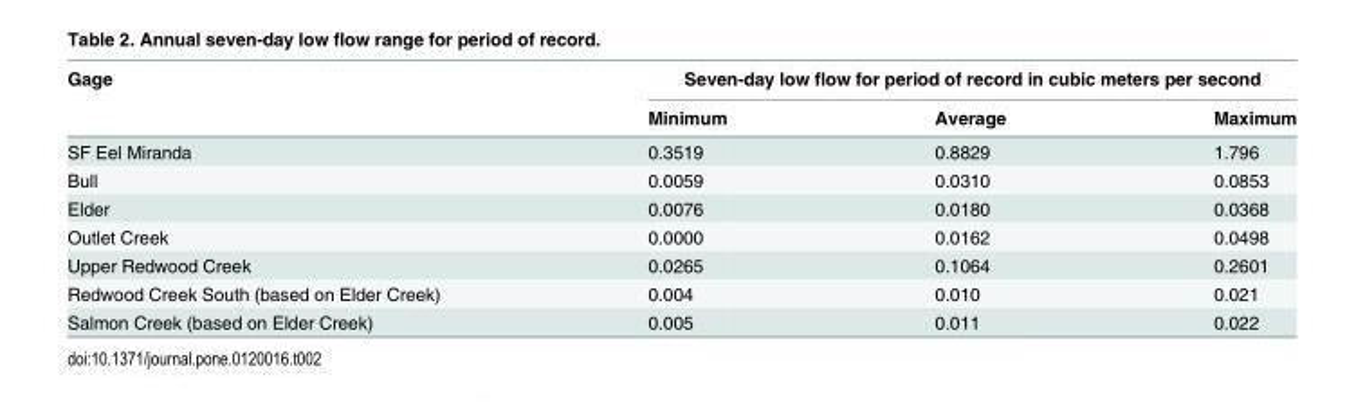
<table><thead><tr><td rowspan="2">Gage</td><td colspan="3">Seven-day low flow for period of record in cubic meters per second</td></tr><tr><td>Minimum</td><td>Average</td><td>Maximum</td></tr></thead><tbody><tr><td>SF Eel Miranda</td><td>0.3519</td><td>0.8829</td><td>1.796</td></tr><tr><td>Bull</td><td>0.0059</td><td>0.0310</td><td>0.0853</td></tr><tr><td>Elder</td><td>0.0076</td><td>0.0180</td><td>0.0368</td></tr><tr><td>Outlet Creek</td><td>0.0000</td><td>0.0162</td><td>0.0498</td></tr><tr><td>Upper Redwood Creek</td><td>0.0265</td><td>0.1064</td><td>0.2601</td></tr><tr><td>Redwood Creek South (based on Elder Creek)</td><td>0.004</td><td>0.010</td><td>0.021</td></tr><tr><td>Salmon Creek (based on Elder Creek)</td><td>0.005</td><td>0.011</td><td>0.022</td></tr></tbody></table>